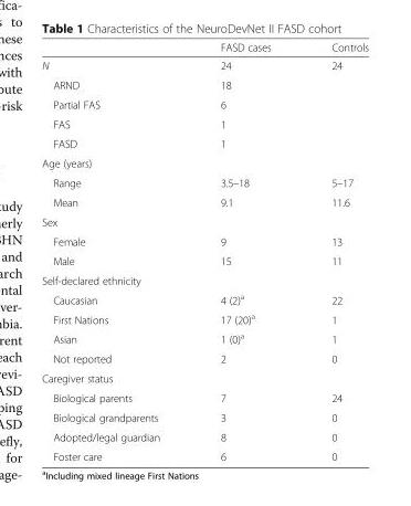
<table><thead><tr><td></td><td>FASD cases</td><td>Controls</td></tr></thead><tbody><tr><td>N</td><td>24</td><td>24</td></tr><tr><td>ARND</td><td>18</td><td></td></tr><tr><td>Partial FAS</td><td>6</td><td></td></tr><tr><td>FAS</td><td>1</td><td></td></tr><tr><td>FASD</td><td>1</td><td></td></tr><tr><td colspan="3">Age (years)</td></tr><tr><td>Range</td><td>3.5–18</td><td>5–17</td></tr><tr><td>Mean</td><td>9.1</td><td>11.6</td></tr><tr><td colspan="3">Sex</td></tr><tr><td>Female</td><td>9</td><td>13</td></tr><tr><td>Male</td><td>15</td><td>11</td></tr><tr><td colspan="3">Self-declared ethnicity</td></tr><tr><td>Caucasian</td><td>4 (2)<sup>a</sup></td><td>22</td></tr><tr><td>First Nations</td><td>17 (20)<sup>a</sup></td><td>1</td></tr><tr><td>Asian</td><td>1 (0)<sup>a</sup></td><td>1</td></tr><tr><td>Not reported</td><td>2</td><td>0</td></tr><tr><td colspan="3">Caregiver status</td></tr><tr><td>Biological parents</td><td>7</td><td>24</td></tr><tr><td>Biological grandparents</td><td>3</td><td>0</td></tr><tr><td>Adopted/legal guardian</td><td>8</td><td>0</td></tr><tr><td>Foster care</td><td>6</td><td>0</td></tr></tbody></table>